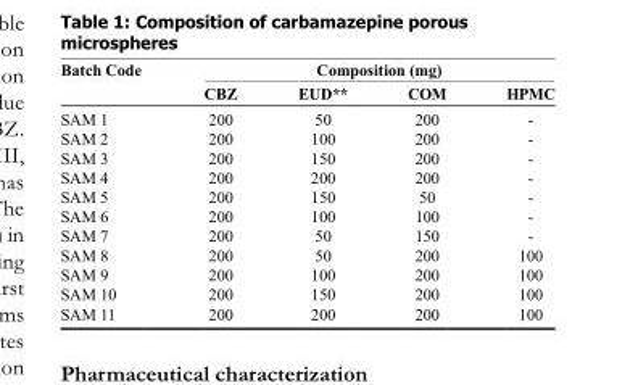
<table><thead><tr><td rowspan="2">Batch Code</td><td colspan="4">Composition (mg)</td></tr><tr><td>CBZ</td><td>EUD**</td><td>COM</td><td>HPMC</td></tr></thead><tbody><tr><td>SAM 1</td><td>200</td><td>50</td><td>200</td><td>-</td></tr><tr><td>SAM 2</td><td>200</td><td>100</td><td>200</td><td>-</td></tr><tr><td>SAM 3</td><td>200</td><td>150</td><td>200</td><td>-</td></tr><tr><td>SAM 4</td><td>200</td><td>200</td><td>200</td><td>-</td></tr><tr><td>SAM 5</td><td>200</td><td>150</td><td>50</td><td>-</td></tr><tr><td>SAM 6</td><td>200</td><td>100</td><td>100</td><td>-</td></tr><tr><td>SAM 7</td><td>200</td><td>50</td><td>150</td><td>-</td></tr><tr><td>SAM 8</td><td>200</td><td>50</td><td>200</td><td>100</td></tr><tr><td>SAM 9</td><td>200</td><td>100</td><td>200</td><td>100</td></tr><tr><td>SAM 10</td><td>200</td><td>150</td><td>200</td><td>100</td></tr><tr><td>SAM 11</td><td>200</td><td>200</td><td>200</td><td>100</td></tr></tbody></table>